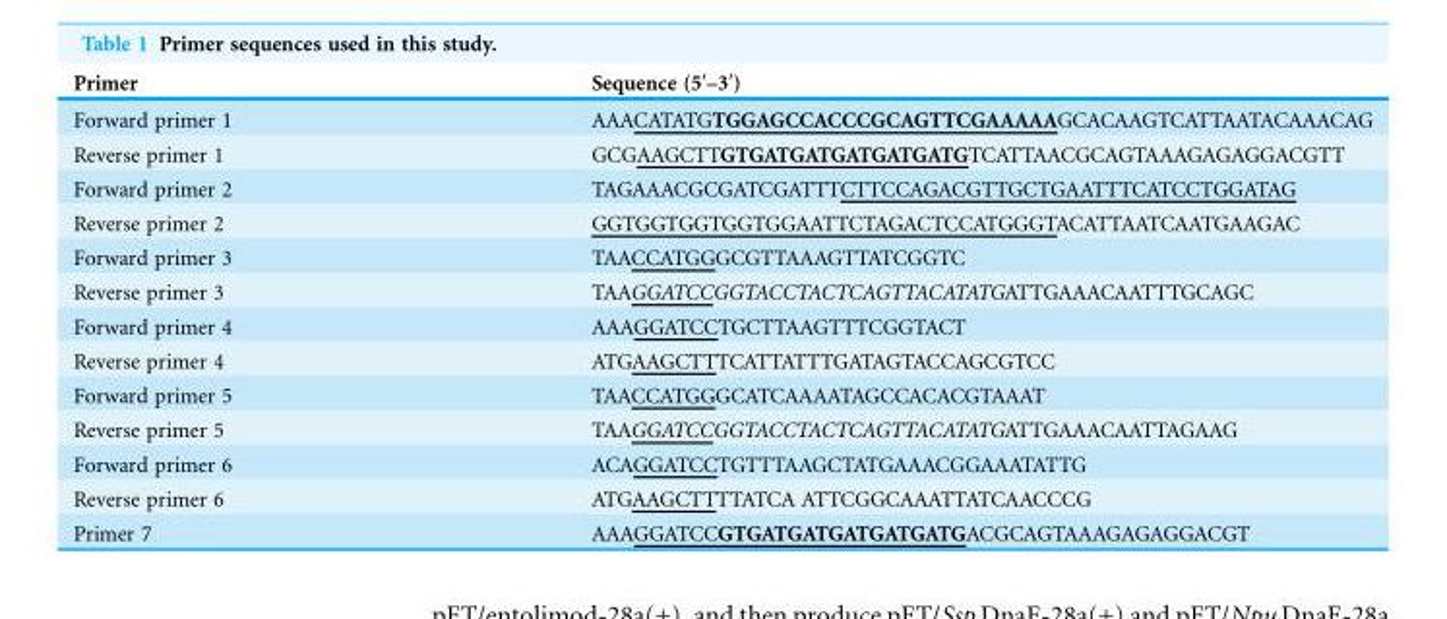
<table><thead><tr><td>Primer</td><td>Sequence (5′–3′)</td></tr></thead><tbody><tr><td>Forward primer 1</td><td>AAACATATGTGGAGCCACCCGCAGTTCGAAAAAGCACAAGTCATTAATACAAACAG</td></tr><tr><td>Reverse primer 1</td><td>GCGAAGCTTGTGATGATGATGATGATGTCATTAACGCAGTAAAGAGAGGACGTT</td></tr><tr><td>Forward primer 2</td><td>TAGAAACGCGATCGATTTCTTCCAGACGTTGCTGAATTTCATCCTGGATAG</td></tr><tr><td>Reverse primer 2</td><td>GGTGGTGGTGGTGGAATTCTAGACTCCATGGGTACATTAATCAATGAAGAC</td></tr><tr><td>Forward primer 3</td><td>TAACCATGGGCGTTAAAGTTATCGGTC</td></tr><tr><td>Reverse primer 3</td><td>TAAGGATCCGGTACCTACTCAGTTACATATGATTGAAACAATTTGCAGC</td></tr><tr><td>Forward primer 4</td><td>AAAGGATCCTGCTTAAGTTTCGGTACT</td></tr><tr><td>Reverse primer 4</td><td>ATGAAGCTTTCATTATTTGATAGTACCAGCGTCC</td></tr><tr><td>Forward primer 5</td><td>TAACCATGGGCATCAAAATAGCCACACGTAAAT</td></tr><tr><td>Reverse primer 5</td><td>TAAGGATCCGGTACCTACTCAGTTACATATGATTGAAACAATTAGAAG</td></tr><tr><td>Forward primer 6</td><td>ACAGGATCCTGTTTAAGCTATGAAACGGAAATATTG</td></tr><tr><td>Reverse primer 6</td><td>ATGAAGCTTTTATCA ATTCGGCAAATTATCAACCCG</td></tr><tr><td>Primer 7</td><td>AAAGGATCCGTGATGATGATGATGATGACGCAGTAAAGAGAGGACGT</td></tr></tbody></table>